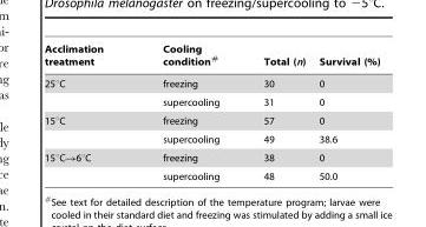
<table><thead><tr><td>Acclimation treatment</td><td>Cooling condition#</td><td>Total (n)</td><td>Survival (%)</td></tr></thead><tbody><tr><td rowspan="2">25°C</td><td>freezing</td><td>30</td><td>0</td></tr><tr><td>supercooling</td><td>31</td><td>0</td></tr><tr><td rowspan="2">15°C</td><td>freezing</td><td>57</td><td>0</td></tr><tr><td>supercooling</td><td>49</td><td>38.6</td></tr><tr><td rowspan="2">15°C→6°C</td><td>freezing</td><td>38</td><td>0</td></tr><tr><td>supercooling</td><td>48</td><td>50.0</td></tr></tbody></table>